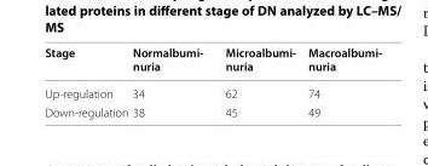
<table><thead><tr><td>Stage</td><td>Normalbumi‑ nuria</td><td>Microalbumi‑ nuria</td><td>Macroalbumi‑ nuria</td></tr></thead><tbody><tr><td>Up-regulation</td><td>34</td><td>62</td><td>74</td></tr><tr><td>Down-regulation</td><td>38</td><td>45</td><td>49</td></tr></tbody></table>